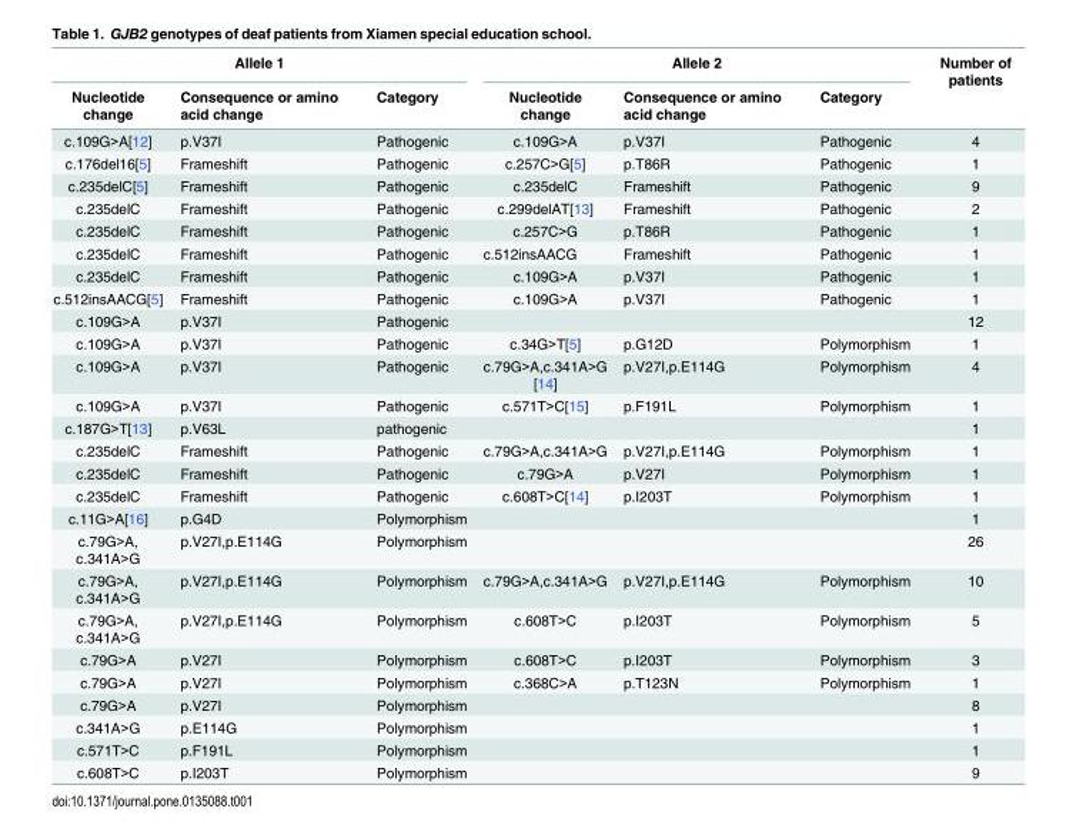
<table><thead><tr><td colspan="3">Allele 1</td><td colspan="3">Allele 2</td><td rowspan="2">Number of patients</td></tr><tr><td>Nucleotide change</td><td>Consequence or amino acid change</td><td>Category</td><td>Nucleotide change</td><td>Consequence or amino acid change</td><td>Category</td></tr></thead><tbody><tr><td>c.109G&gt;A[12]</td><td>p.V37I</td><td>Pathogenic</td><td>c.109G&gt;A</td><td>p.V37I</td><td>Pathogenic</td><td>4</td></tr><tr><td>c.176del16[5]</td><td>Frameshift</td><td>Pathogenic</td><td>c.257C&gt;G[5]</td><td>p.T86R</td><td>Pathogenic</td><td>1</td></tr><tr><td>c.235delC[5]</td><td>Frameshift</td><td>Pathogenic</td><td>c.235delC</td><td>Frameshift</td><td>Pathogenic</td><td>9</td></tr><tr><td>c.235delC</td><td>Frameshift</td><td>Pathogenic</td><td>c.299delAT[13]</td><td>Frameshift</td><td>Pathogenic</td><td>2</td></tr><tr><td>c.235delC</td><td>Frameshift</td><td>Pathogenic</td><td>c.257C&gt;G</td><td>p.T86R</td><td>Pathogenic</td><td>1</td></tr><tr><td>c.235delC</td><td>Frameshift</td><td>Pathogenic</td><td>c.512insAACG</td><td>Frameshift</td><td>Pathogenic</td><td>1</td></tr><tr><td>c.235delC</td><td>Frameshift</td><td>Pathogenic</td><td>c.109G&gt;A</td><td>p.V37I</td><td>Pathogenic</td><td>1</td></tr><tr><td>c.512insAACG[5]</td><td>Frameshift</td><td>Pathogenic</td><td>c.109G&gt;A</td><td>p.V37I</td><td>Pathogenic</td><td>1</td></tr><tr><td>c.109G&gt;A</td><td>p.V37I</td><td>Pathogenic</td><td></td><td></td><td></td><td>12</td></tr><tr><td>c.109G&gt;A</td><td>p.V37I</td><td>Pathogenic</td><td>c.34G&gt;T[5]</td><td>p.G12D</td><td>Polymorphism</td><td>1</td></tr><tr><td>c.109G&gt;A</td><td>p.V37I</td><td>Pathogenic</td><td>c.79G&gt;A,c.341A&gt;G [14]</td><td>p.V27I,p.E114G</td><td>Polymorphism</td><td>4</td></tr><tr><td>c.109G&gt;A</td><td>p.V37I</td><td>Pathogenic</td><td>c.571T&gt;C[15]</td><td>p.F191L</td><td>Polymorphism</td><td>1</td></tr><tr><td>c.187G&gt;T[13]</td><td>p.V63L</td><td>pathogenic</td><td></td><td></td><td></td><td>1</td></tr><tr><td>c.235delC</td><td>Frameshift</td><td>Pathogenic</td><td>c.79G&gt;A,c.341A&gt;G</td><td>p.V27I,p.E114G</td><td>Polymorphism</td><td>1</td></tr><tr><td>c.235delC</td><td>Frameshift</td><td>Pathogenic</td><td>c.79G&gt;A</td><td>p.V27I</td><td>Polymorphism</td><td>1</td></tr><tr><td>c.235delC</td><td>Frameshift</td><td>Pathogenic</td><td>c.608T&gt;C[14]</td><td>p.I203T</td><td>Polymorphism</td><td>1</td></tr><tr><td>c.11G&gt;A[16]</td><td>p.G4D</td><td>Polymorphism</td><td></td><td></td><td></td><td>1</td></tr><tr><td>c.79G&gt;A, c.341A&gt;G</td><td>p.V27I,p.E114G</td><td>Polymorphism</td><td></td><td></td><td></td><td>26</td></tr><tr><td>c.79G&gt;A, c.341A&gt;G</td><td>p.V27I,p.E114G</td><td>Polymorphism</td><td>c.79G&gt;A,c.341A&gt;G</td><td>p.V27I,p.E114G</td><td>Polymorphism</td><td>10</td></tr><tr><td>c.79G&gt;A, c.341A&gt;G</td><td>p.V27I,p.E114G</td><td>Polymorphism</td><td>c.608T&gt;C</td><td>p.I203T</td><td>Polymorphism</td><td>5</td></tr><tr><td>c.79G&gt;A</td><td>p.V27I</td><td>Polymorphism</td><td>c.608T&gt;C</td><td>p.I203T</td><td>Polymorphism</td><td>3</td></tr><tr><td>c.79G&gt;A</td><td>p.V27I</td><td>Polymorphism</td><td>c.368C&gt;A</td><td>p.T123N</td><td>Polymorphism</td><td>1</td></tr><tr><td>c.79G&gt;A</td><td>p.V27I</td><td>Polymorphism</td><td></td><td></td><td></td><td>8</td></tr><tr><td>c.341A&gt;G</td><td>p.E114G</td><td>Polymorphism</td><td></td><td></td><td></td><td>1</td></tr><tr><td>c.571T&gt;C</td><td>p.F191L</td><td>Polymorphism</td><td></td><td></td><td></td><td>1</td></tr><tr><td>c.608T&gt;C</td><td>p.I203T</td><td>Polymorphism</td><td></td><td></td><td></td><td>9</td></tr></tbody></table>